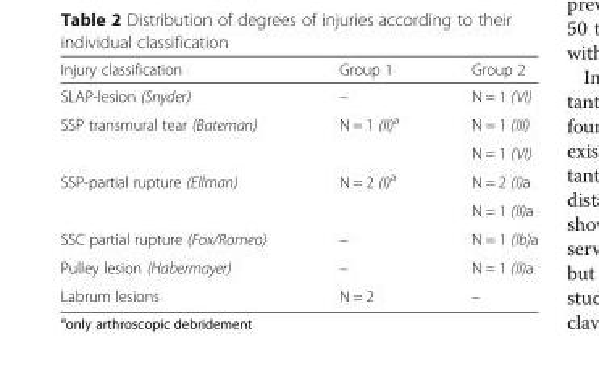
<table><thead><tr><td>Injury classification</td><td>Group 1</td><td>Group 2</td></tr></thead><tbody><tr><td>SLAP-lesion (Snyder)</td><td>–</td><td>N = 1 (VI)</td></tr><tr><td rowspan="2">SSP transmural tear (Bateman)</td><td rowspan="2">N = 1 (II)<sup>a</sup></td><td>N = 1 (III)</td></tr><tr><td>N = 1 (VI)</td></tr><tr><td rowspan="2">SSP-partial rupture (Ellman)</td><td rowspan="2">N = 2 (I)<sup>a</sup></td><td>N = 2 (I)a</td></tr><tr><td>N = 1 (II)a</td></tr><tr><td>SSC partial rupture (Fox/Romeo)</td><td>–</td><td>N = 1 (Ib)a</td></tr><tr><td>Pulley lesion (Habermayer)</td><td>–</td><td>N = 1 (II)a</td></tr><tr><td>Labrum lesions</td><td>N = 2</td><td>–</td></tr></tbody></table>